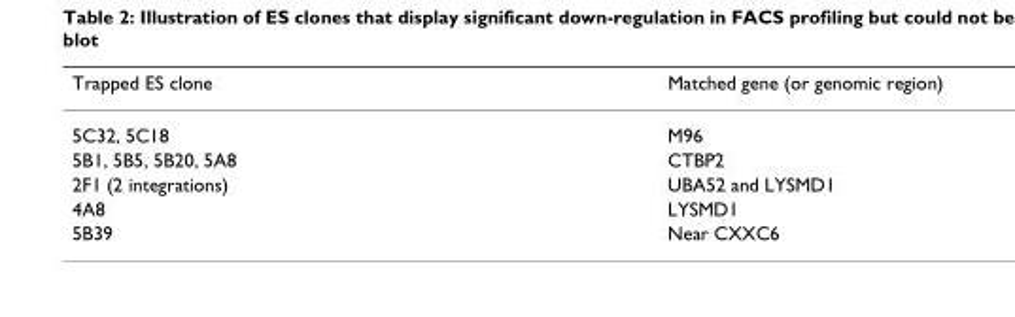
<table><thead><tr><td>Trapped ES clone</td><td>Matched gene (or genomic region)</td></tr></thead><tbody><tr><td>5C32, 5C18</td><td>M96</td></tr><tr><td>5B1, 5B5, 5B20, 5A8</td><td>CTBP2</td></tr><tr><td>2F1 (2 integrations)</td><td>UBA52 and LYSMD1</td></tr><tr><td>4A8</td><td>LYSMD1</td></tr><tr><td>5B39</td><td>Near CXXC6</td></tr></tbody></table>